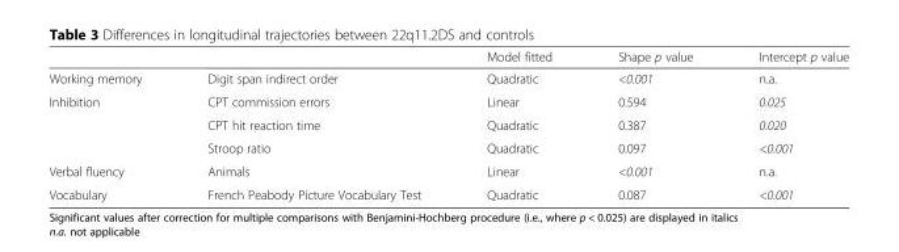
<table><thead><tr><td></td><td></td><td>Model fitted</td><td>Shape p value</td><td>Intercept p value</td></tr></thead><tbody><tr><td>Working memory</td><td>Digit span indirect order</td><td>Quadratic</td><td>&lt;0.001</td><td>n.a.</td></tr><tr><td rowspan="3">Inhibition</td><td>CPT commission errors</td><td>Linear</td><td>0.594</td><td>0.025</td></tr><tr><td>CPT hit reaction time</td><td>Quadratic</td><td>0.387</td><td>0.020</td></tr><tr><td>Stroop ratio</td><td>Quadratic</td><td>0.097</td><td>&lt;0.001</td></tr><tr><td>Verbal fluency</td><td>Animals</td><td>Linear</td><td>&lt;0.001</td><td>n.a.</td></tr><tr><td>Vocabulary</td><td>French Peabody Picture Vocabulary Test</td><td>Quadratic</td><td>0.087</td><td>&lt;0.001</td></tr></tbody></table>